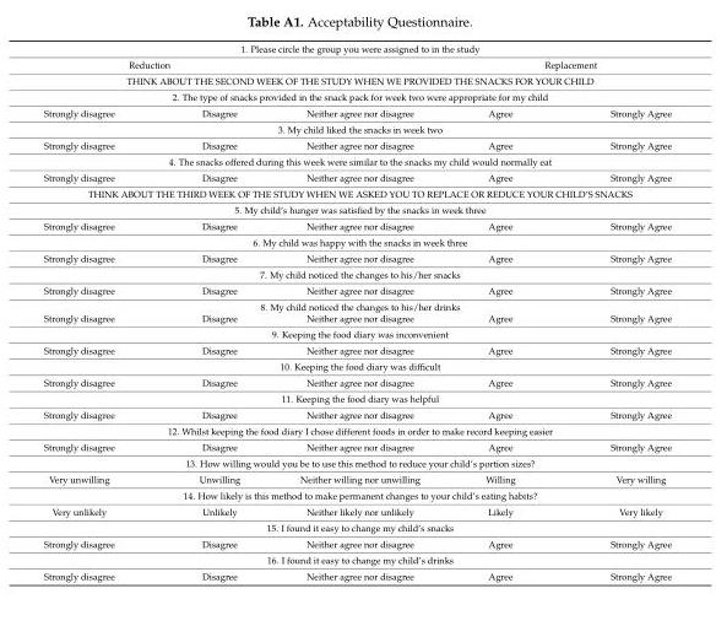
<table><tbody><tr><td colspan="5">1. Please circle the group you were assigned to in the study</td></tr><tr><td colspan="2">Reduction</td><td></td><td colspan="2">Replacement</td></tr><tr><td colspan="5">THINK ABOUT THE SECOND WEEK OF THE STUDY WHEN WE PROVIDED THE SNACKS FOR YOUR CHILD</td></tr><tr><td colspan="5">2. The type of snacks provided in the snack pack for week two were appropriate for my child</td></tr><tr><td>Strongly disagree</td><td>Disagree</td><td>Neither agree nor disagree</td><td>Agree</td><td>Strongly Agree</td></tr><tr><td colspan="5">3. My child liked the snacks in week two</td></tr><tr><td>Strongly disagree</td><td>Disagree</td><td>Neither agree nor disagree</td><td>Agree</td><td>Strongly Agree</td></tr><tr><td colspan="5">4. The snacks offered during this week were similar to the snacks my child would normally eat</td></tr><tr><td>Strongly disagree</td><td>Disagree</td><td>Neither agree nor disagree</td><td>Agree</td><td>Strongly Agree</td></tr><tr><td colspan="5">THINK ABOUT THE THIRD WEEK OF THE STUDY WHEN WE ASKED YOU TO REPLACE OR REDUCE YOUR CHILD’S SNACKS</td></tr><tr><td colspan="5">5. My child’s hunger was satisfied by the snacks in week three</td></tr><tr><td>Strongly disagree</td><td>Disagree</td><td>Neither agree nor disagree</td><td>Agree</td><td>Strongly Agree</td></tr><tr><td colspan="5">6. My child was happy with the snacks in week three</td></tr><tr><td>Strongly disagree</td><td>Disagree</td><td>Neither agree nor disagree</td><td>Agree</td><td>Strongly Agree</td></tr><tr><td colspan="5">7. My child noticed the changes to his/her snacks</td></tr><tr><td>Strongly disagree</td><td>Disagree</td><td>Neither agree nor disagree</td><td>Agree</td><td>Strongly Agree</td></tr><tr><td colspan="5">8. My child noticed the changes to his/her drinks</td></tr><tr><td>Strongly disagree</td><td>Disagree</td><td>Neither agree nor disagree</td><td>Agree</td><td>Strongly Agree</td></tr><tr><td colspan="5">9. Keeping the food diary was inconvenient</td></tr><tr><td>Strongly disagree</td><td>Disagree</td><td>Neither agree nor disagree</td><td>Agree</td><td>Strongly Agree</td></tr><tr><td colspan="5">10. Keeping the food diary was difficult</td></tr><tr><td>Strongly disagree</td><td>Disagree</td><td>Neither agree nor disagree</td><td>Agree</td><td>Strongly Agree</td></tr><tr><td colspan="5">11. Keeping the food diary was helpful</td></tr><tr><td>Strongly disagree</td><td>Disagree</td><td>Neither agree nor disagree</td><td>Agree</td><td>Strongly Agree</td></tr><tr><td colspan="5">12. Whilst keeping the food diary I chose different foods in order to make record keeping easier</td></tr><tr><td>Strongly disagree</td><td>Disagree</td><td>Neither agree nor disagree</td><td>Agree</td><td>Strongly Agree</td></tr><tr><td colspan="5">13. How willing would you be to use this method to reduce your child’s portion sizes?</td></tr><tr><td>Very unwilling</td><td>Unwilling</td><td>Neither willing nor unwilling</td><td>Willing</td><td>Very willing</td></tr><tr><td colspan="5">14. How likely is this method to make permanent changes to your child’s eating habits?</td></tr><tr><td>Very unlikely</td><td>Unlikely</td><td>Neither likely nor unlikely</td><td>Likely</td><td>Very likely</td></tr><tr><td colspan="5">15. I found it easy to change my child’s snacks</td></tr><tr><td>Strongly disagree</td><td>Disagree</td><td>Neither agree nor disagree</td><td>Agree</td><td>Strongly Agree</td></tr><tr><td colspan="5">16. I found it easy to change my child’s drinks</td></tr><tr><td>Strongly disagree</td><td>Disagree</td><td>Neither agree nor disagree</td><td>Agree</td><td>Strongly Agree</td></tr></tbody></table>